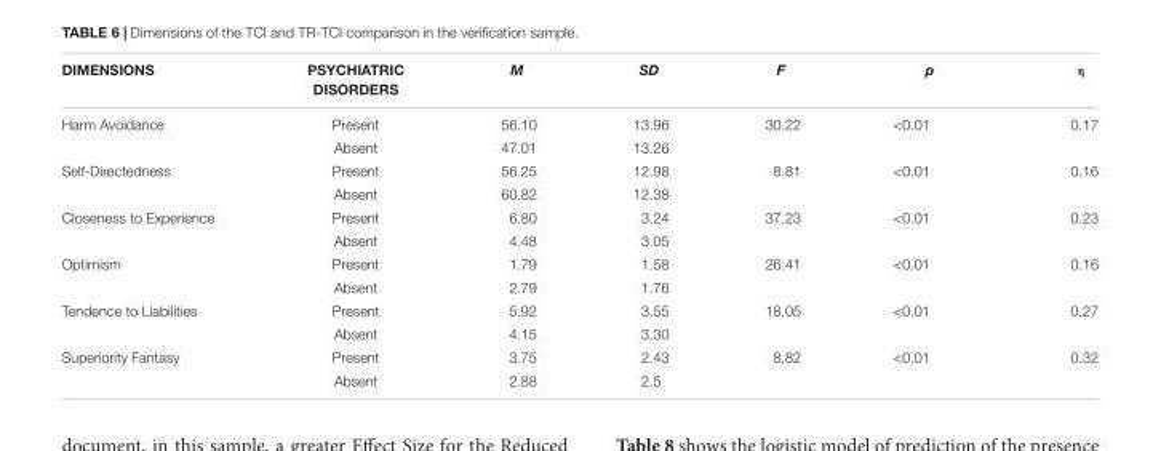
<table><thead><tr><td>DIMENSIONS</td><td>PSYCHIATRIC DISORDERS</td><td>M</td><td>SD</td><td>F</td><td>p</td><td>η</td></tr></thead><tbody><tr><td rowspan="2">Harm Avoidance</td><td>Present</td><td>56.10</td><td>13.96</td><td>30.22</td><td>&lt;0.01</td><td>0.17</td></tr><tr><td>Absent</td><td>47.01</td><td>13.26</td><td></td><td></td><td></td></tr><tr><td rowspan="2">Self-Directedness</td><td>Present</td><td>56.25</td><td>12.98</td><td>8.81</td><td>&lt;0.01</td><td>0.16</td></tr><tr><td>Absent</td><td>60.82</td><td>12.38</td><td></td><td></td><td></td></tr><tr><td rowspan="2">Closeness to Experience</td><td>Present</td><td>6.80</td><td>3.24</td><td>37.23</td><td>&lt;0.01</td><td>0.23</td></tr><tr><td>Absent</td><td>4.48</td><td>3.05</td><td></td><td></td><td></td></tr><tr><td rowspan="2">Optimism</td><td>Present</td><td>1.79</td><td>1.58</td><td>26.41</td><td>&lt;0.01</td><td>0.16</td></tr><tr><td>Absent</td><td>2.79</td><td>1.76</td><td></td><td></td><td></td></tr><tr><td rowspan="2">Tendence to Liabilities</td><td>Present</td><td>5.92</td><td>3.55</td><td>18.05</td><td>&lt;0.01</td><td>0.27</td></tr><tr><td>Absent</td><td>4.15</td><td>3.30</td><td></td><td></td><td></td></tr><tr><td rowspan="2">Superiority Fantasy</td><td>Present</td><td>3.75</td><td>2.43</td><td>8.82</td><td>&lt;0.01</td><td>0.32</td></tr><tr><td>Absent</td><td>2.88</td><td>2.5</td><td></td><td></td><td></td></tr></tbody></table>